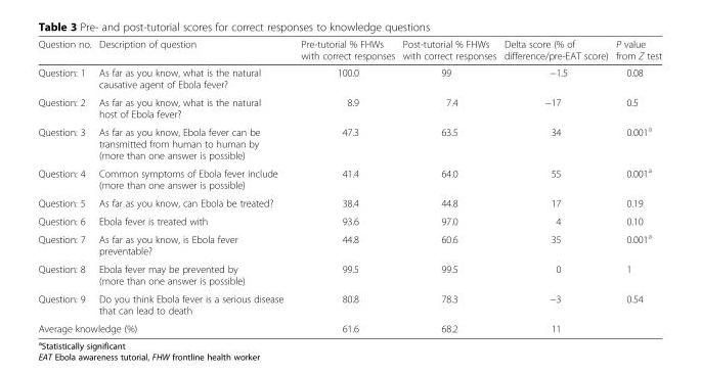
<table><thead><tr><td>Question no.</td><td>Description of question</td><td>Pre-tutorial % FHWs with correct responses</td><td>Post-tutorial % FHWs with correct responses</td><td>Delta score (% of difference/pre-EAT score)</td><td>P value from Z test</td></tr></thead><tbody><tr><td>Question: 1</td><td>As far as you know, what is the natural causative agent of Ebola fever?</td><td>100.0</td><td>99</td><td>−1.5</td><td>0.08</td></tr><tr><td>Question: 2</td><td>As far as you know, what is the natural host of Ebola fever?</td><td>8.9</td><td>7.4</td><td>−17</td><td>0.5</td></tr><tr><td>Question: 3</td><td>As far as you know, Ebola fever can be transmitted from human to human by (more than one answer is possible)</td><td>47.3</td><td>63.5</td><td>34</td><td>0.001<sup>a</sup></td></tr><tr><td>Question: 4</td><td>Common symptoms of Ebola fever include (more than one answer is possible)</td><td>41.4</td><td>64.0</td><td>55</td><td>0.001<sup>a</sup></td></tr><tr><td>Question: 5</td><td>As far as you know, can Ebola be treated?</td><td>38.4</td><td>44.8</td><td>17</td><td>0.19</td></tr><tr><td>Question: 6</td><td>Ebola fever is treated with</td><td>93.6</td><td>97.0</td><td>4</td><td>0.10</td></tr><tr><td>Question: 7</td><td>As far as you know, is Ebola fever preventable?</td><td>44.8</td><td>60.6</td><td>35</td><td>0.001<sup>a</sup></td></tr><tr><td>Question: 8</td><td>Ebola fever may be prevented by (more than one answer is possible)</td><td>99.5</td><td>99.5</td><td>0</td><td>1</td></tr><tr><td>Question: 9</td><td>Do you think Ebola fever is a serious disease that can lead to death</td><td>80.8</td><td>78.3</td><td>−3</td><td>0.54</td></tr><tr><td colspan="2">Average knowledge (%)</td><td>61.6</td><td>68.2</td><td>11</td><td></td></tr></tbody></table>